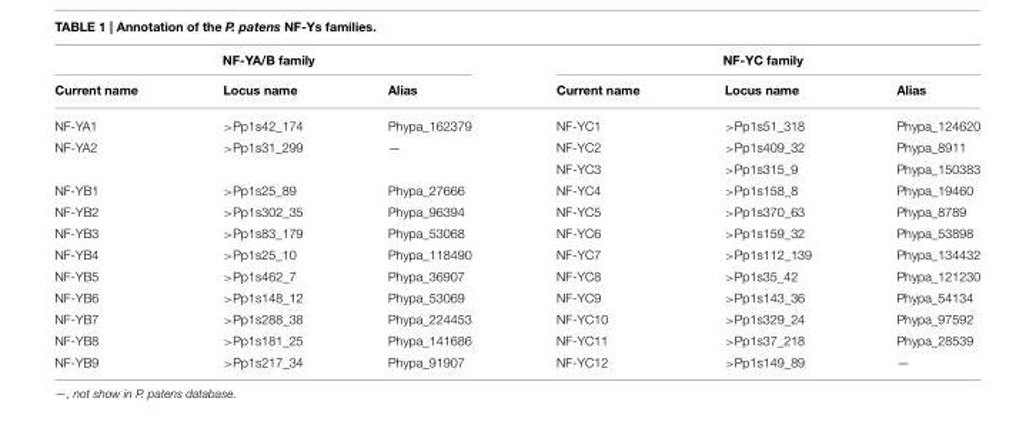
<table><thead><tr><td colspan="3">NF-YA/B family</td><td colspan="3">NF-YC family</td></tr><tr><td>Current name</td><td>Locus name</td><td>Alias</td><td>Current name</td><td>Locus name</td><td>Alias</td></tr></thead><tbody><tr><td>NF-YA1</td><td>&gt;Pp1s42_174</td><td>Phypa_162379</td><td>NF-YC1</td><td>&gt;Pp1s51_318</td><td>Phypa_124620</td></tr><tr><td rowspan="2">NF-YA2</td><td>&gt;Pp1s31_299</td><td>—</td><td>NF-YC2</td><td>&gt;Pp1s409_32</td><td>Phypa_8911</td></tr><tr><td></td><td></td><td>NF-YC3</td><td>&gt;Pp1s315_9</td><td>Phypa_150383</td></tr><tr><td>NF-YB1</td><td>&gt;Pp1s25_89</td><td>Phypa_27666</td><td>NF-YC4</td><td>&gt;Pp1s158_8</td><td>Phypa_19460</td></tr><tr><td>NF-YB2</td><td>&gt;Pp1s302_35</td><td>Phypa_96394</td><td>NF-YC5</td><td>&gt;Pp1s370_63</td><td>Phypa_8789</td></tr><tr><td>NF-YB3</td><td>&gt;Pp1s83_179</td><td>Phypa_53068</td><td>NF-YC6</td><td>&gt;Pp1s159_32</td><td>Phypa_53898</td></tr><tr><td>NF-YB4</td><td>&gt;Pp1s25_10</td><td>Phypa_118490</td><td>NF-YC7</td><td>&gt;Pp1s112_139</td><td>Phypa_134432</td></tr><tr><td>NF-YB5</td><td>&gt;Pp1s462_7</td><td>Phypa_36907</td><td>NF-YC8</td><td>&gt;Pp1s35_42</td><td>Phypa_121230</td></tr><tr><td>NF-YB6</td><td>&gt;Pp1s148_12</td><td>Phypa_53069</td><td>NF-YC9</td><td>&gt;Pp1s143_36</td><td>Phypa_54134</td></tr><tr><td>NF-YB7</td><td>&gt;Pp1s288_38</td><td>Phypa_224453</td><td>NF-YC10</td><td>&gt;Pp1s329_24</td><td>Phypa_97592</td></tr><tr><td>NF-YB8</td><td>&gt;Pp1s181_25</td><td>Phypa_141686</td><td>NF-YC11</td><td>&gt;Pp1s37_218</td><td>Phypa_28539</td></tr><tr><td>NF-YB9</td><td>&gt;Pp1s217_34</td><td>Phypa_91907</td><td>NF-YC12</td><td>&gt;Pp1s149_89</td><td>—</td></tr></tbody></table>